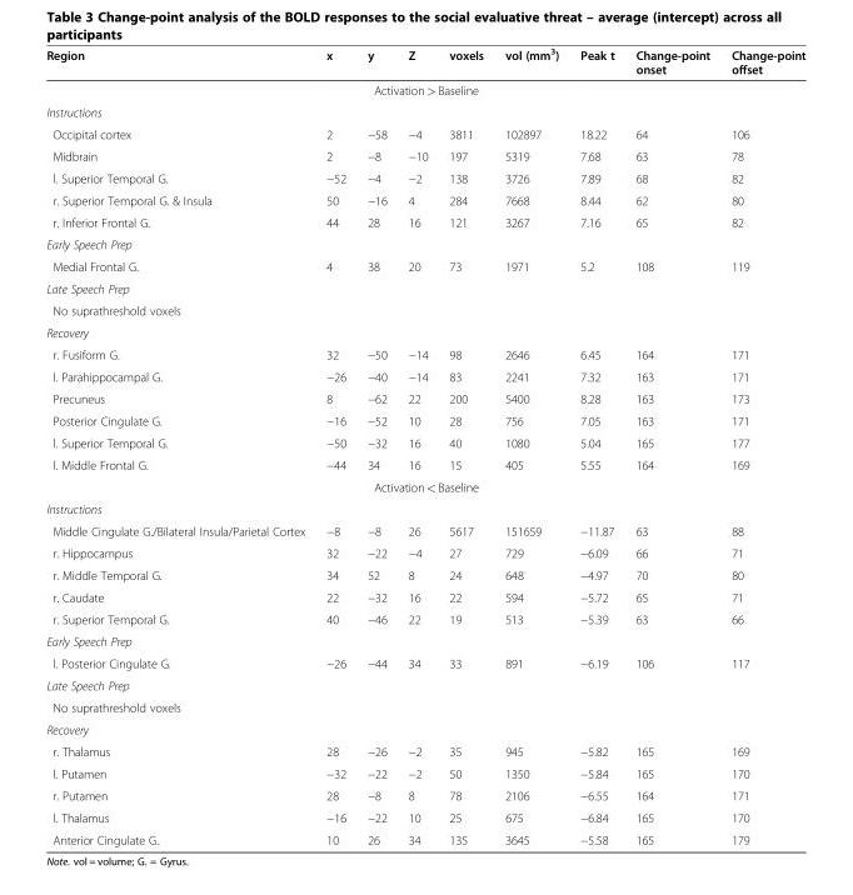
<table><thead><tr><td>Region</td><td>x</td><td>y</td><td>Z</td><td>voxels</td><td>vol (mm<sup>3</sup>)</td><td>Peak t</td><td>Change-point onset</td><td>Change-point offset</td></tr></thead><tbody><tr><td colspan="9">Activation &gt; Baseline</td></tr><tr><td colspan="9">Instructions</td></tr><tr><td>Occipital cortex</td><td>2</td><td>−58</td><td>−4</td><td>3811</td><td>102897</td><td>18.22</td><td>64</td><td>106</td></tr><tr><td>Midbrain</td><td>2</td><td>−8</td><td>−10</td><td>197</td><td>5319</td><td>7.68</td><td>63</td><td>78</td></tr><tr><td>l. Superior Temporal G.</td><td>−52</td><td>−4</td><td>−2</td><td>138</td><td>3726</td><td>7.89</td><td>68</td><td>82</td></tr><tr><td>r. Superior Temporal G. &amp; Insula</td><td>50</td><td>−16</td><td>4</td><td>284</td><td>7668</td><td>8.44</td><td>62</td><td>80</td></tr><tr><td>r. Inferior Frontal G.</td><td>44</td><td>28</td><td>16</td><td>121</td><td>3267</td><td>7.16</td><td>65</td><td>82</td></tr><tr><td colspan="9">Early Speech Prep</td></tr><tr><td>Medial Frontal G.</td><td>4</td><td>38</td><td>20</td><td>73</td><td>1971</td><td>5.2</td><td>108</td><td>119</td></tr><tr><td colspan="9">Late Speech Prep</td></tr><tr><td colspan="9">No suprathreshold voxels</td></tr><tr><td colspan="9">Recovery</td></tr><tr><td>r. Fusiform G.</td><td>32</td><td>−50</td><td>−14</td><td>98</td><td>2646</td><td>6.45</td><td>164</td><td>171</td></tr><tr><td>l. Parahippocampal G.</td><td>−26</td><td>−40</td><td>−14</td><td>83</td><td>2241</td><td>7.32</td><td>163</td><td>171</td></tr><tr><td>Precuneus</td><td>8</td><td>−62</td><td>22</td><td>200</td><td>5400</td><td>8.28</td><td>163</td><td>173</td></tr><tr><td>Posterior Cingulate G.</td><td>−16</td><td>−52</td><td>10</td><td>28</td><td>756</td><td>7.05</td><td>163</td><td>171</td></tr><tr><td>l. Superior Temporal G.</td><td>−50</td><td>−32</td><td>16</td><td>40</td><td>1080</td><td>5.04</td><td>165</td><td>177</td></tr><tr><td>l. Middle Frontal G.</td><td>−44</td><td>34</td><td>16</td><td>15</td><td>405</td><td>5.55</td><td>164</td><td>169</td></tr><tr><td colspan="9">Activation &lt; Baseline</td></tr><tr><td colspan="9">Instructions</td></tr><tr><td>Middle Cingulate G./Bilateral Insula/Parietal Cortex</td><td>−8</td><td>−8</td><td>26</td><td>5617</td><td>151659</td><td>−11.87</td><td>63</td><td>88</td></tr><tr><td>r. Hippocampus</td><td>32</td><td>−22</td><td>−4</td><td>27</td><td>729</td><td>−6.09</td><td>66</td><td>71</td></tr><tr><td>r. Middle Temporal G.</td><td>34</td><td>52</td><td>8</td><td>24</td><td>648</td><td>−4.97</td><td>70</td><td>80</td></tr><tr><td>r. Caudate</td><td>22</td><td>−32</td><td>16</td><td>22</td><td>594</td><td>−5.72</td><td>65</td><td>71</td></tr><tr><td>r. Superior Temporal G.</td><td>40</td><td>−46</td><td>22</td><td>19</td><td>513</td><td>−5.39</td><td>63</td><td>66</td></tr><tr><td colspan="9">Early Speech Prep</td></tr><tr><td>l. Posterior Cingulate G.</td><td>−26</td><td>−44</td><td>34</td><td>33</td><td>891</td><td>−6.19</td><td>106</td><td>117</td></tr><tr><td colspan="9">Late Speech Prep</td></tr><tr><td colspan="9">No suprathreshold voxels</td></tr><tr><td colspan="9">Recovery</td></tr><tr><td>r. Thalamus</td><td>28</td><td>−26</td><td>−2</td><td>35</td><td>945</td><td>−5.82</td><td>165</td><td>169</td></tr><tr><td>l. Putamen</td><td>−32</td><td>−22</td><td>−2</td><td>50</td><td>1350</td><td>−5.84</td><td>165</td><td>170</td></tr><tr><td>r. Putamen</td><td>28</td><td>−8</td><td>8</td><td>78</td><td>2106</td><td>−6.55</td><td>164</td><td>171</td></tr><tr><td>l. Thalamus</td><td>−16</td><td>−22</td><td>10</td><td>25</td><td>675</td><td>−6.84</td><td>165</td><td>170</td></tr><tr><td>Anterior Cingulate G.</td><td>10</td><td>26</td><td>34</td><td>135</td><td>3645</td><td>−5.58</td><td>165</td><td>179</td></tr></tbody></table>